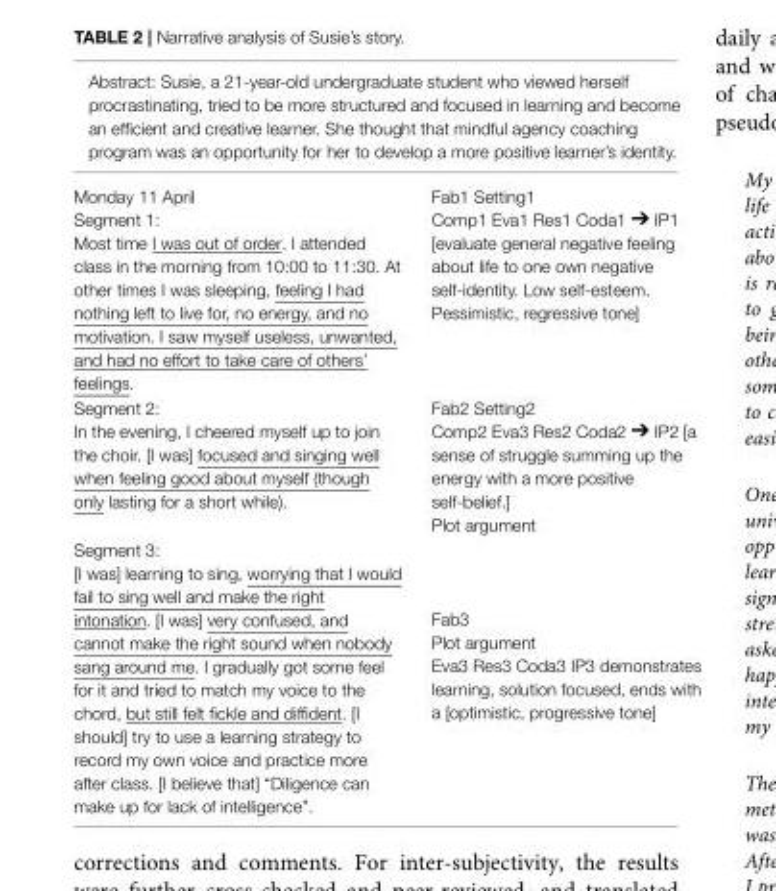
<table><thead><tr><td colspan="2">Abstract: Susie, a 21-year-old undergraduate student who viewed herself procrastinating, tried to be more structured and focused in learning and become an efficient and creative learner. She thought that mindful agency coaching program was an opportunity for her to develop a more positive learner’s identity.</td></tr><tr><td>Monday 11 April Segment 1: Most time I was out of order. I attended class in the morning from 10:00 to 11:30. At other times I was sleeping, feeling I had nothing left to live for, no energy, and no motivation. I saw myself useless, unwanted, and had no effort to take care of others’ feelings.</td><td>Fab1 Setting1 Comp1 Eva1 Res1 Coda1 → IP1 [evaluate general negative feeling about life to one own negative self-identity. Low self-esteem. Pessimistic, regressive tone]</td></tr></thead><tbody><tr><td>Segment 2: In the evening, I cheered myself up to join the choir. [I was] focused and singing well when feeling good about myself (though only lasting for a short while).</td><td>Fab2 Setting2 Comp2 Eva3 Res2 Coda2 → IP2 [a sense of struggle summing up the energy with a more positive self-belief.] Plot argument</td></tr><tr><td>Segment 3: [I was] learning to sing, worrying that I would fail to sing well and make the right intonation. [I was] very confused, and cannot make the right sound when nobody sang around me. I gradually got some feel for it and tried to match my voice to the chord, but still felt fickle and diffident. [I should] try to use a learning strategy to record my own voice and practice more after class. [I believe that] “Diligence can make up for lack of intelligence”.</td><td>Fab3 Plot argument Eva3 Res3 Coda3 IP3 demonstrates learning, solution focused, ends with a [optimistic, progressive tone]</td></tr></tbody></table>